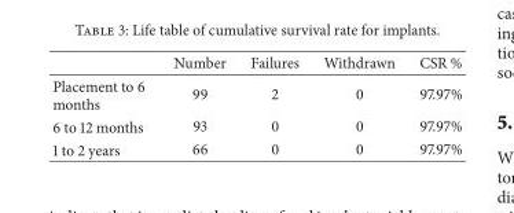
<table><thead><tr><td></td><td>Number</td><td>Failures</td><td>Withdrawn</td><td>CSR %</td></tr></thead><tbody><tr><td>Placement to 6 months</td><td>99</td><td>2</td><td>0</td><td>97.97%</td></tr><tr><td>6 to 12 months</td><td>93</td><td>0</td><td>0</td><td>97.97%</td></tr><tr><td>1 to 2 years</td><td>66</td><td>0</td><td>0</td><td>97.97%</td></tr></tbody></table>